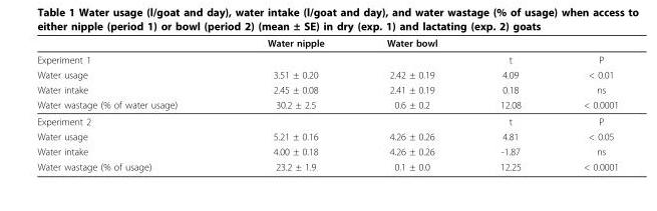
<table><thead><tr><td></td><td>Water nipple</td><td>Water bowl</td><td></td><td></td></tr></thead><tbody><tr><td>Experiment 1</td><td></td><td></td><td>t</td><td>P</td></tr><tr><td>Water usage</td><td>3.51 ± 0.20</td><td>2.42 ± 0.19</td><td>4.09</td><td>&lt; 0.01</td></tr><tr><td>Water intake</td><td>2.45 ± 0.08</td><td>2.41 ± 0.19</td><td>0.18</td><td>ns</td></tr><tr><td>Water wastage (% of water usage)</td><td>30.2 ± 2.5</td><td>0.6 ± 0.2</td><td>12.08</td><td>&lt; 0.0001</td></tr><tr><td>Experiment 2</td><td></td><td></td><td>t</td><td>P</td></tr><tr><td>Water usage</td><td>5.21 ± 0.16</td><td>4.26 ± 0.26</td><td>4.81</td><td>&lt; 0.05</td></tr><tr><td>Water intake</td><td>4.00 ± 0.18</td><td>4.26 ± 0.26</td><td>-1.87</td><td>ns</td></tr><tr><td>Water wastage (% of usage)</td><td>23.2 ± 1.9</td><td>0.1 ± 0.0</td><td>12.25</td><td>&lt; 0.0001</td></tr></tbody></table>